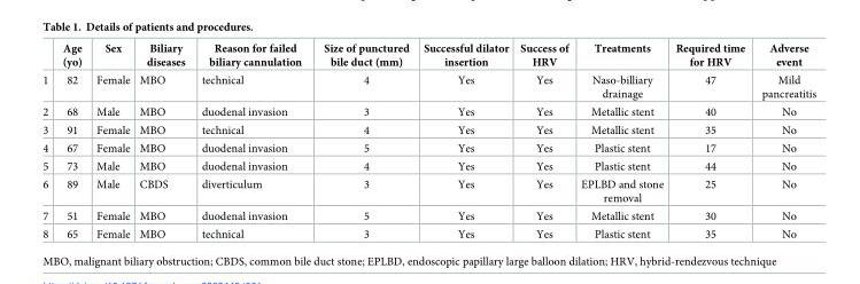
<table><thead><tr><td></td><td>Age (yo)</td><td>Sex</td><td>Biliary diseases</td><td>Reason for failed biliary cannulation</td><td>Size of punctured bile duct (mm)</td><td>Successful dilator insertion</td><td>Success of HRV</td><td>Treatments</td><td>Required time for HRV</td><td>Adverse event</td></tr></thead><tbody><tr><td>1</td><td>82</td><td>Female</td><td>MBO</td><td>technical</td><td>4</td><td>Yes</td><td>Yes</td><td>Naso-billiary drainage</td><td>47</td><td>Mild pancreatitis</td></tr><tr><td>2</td><td>68</td><td>Male</td><td>MBO</td><td>duodenal invasion</td><td>3</td><td>Yes</td><td>Yes</td><td>Metallic stent</td><td>40</td><td>No</td></tr><tr><td>3</td><td>91</td><td>Female</td><td>MBO</td><td>technical</td><td>4</td><td>Yes</td><td>Yes</td><td>Metallic stent</td><td>35</td><td>No</td></tr><tr><td>4</td><td>67</td><td>Female</td><td>MBO</td><td>duodenal invasion</td><td>5</td><td>Yes</td><td>Yes</td><td>Plastic stent</td><td>17</td><td>No</td></tr><tr><td>5</td><td>73</td><td>Male</td><td>MBO</td><td>duodenal invasion</td><td>4</td><td>Yes</td><td>Yes</td><td>Plastic stent</td><td>44</td><td>No</td></tr><tr><td>6</td><td>89</td><td>Male</td><td>CBDS</td><td>diverticulum</td><td>3</td><td>Yes</td><td>Yes</td><td>EPLBD and stone removal</td><td>25</td><td>No</td></tr><tr><td>7</td><td>51</td><td>Female</td><td>MBO</td><td>duodenal invasion</td><td>5</td><td>Yes</td><td>Yes</td><td>Metallic stent</td><td>30</td><td>No</td></tr><tr><td>8</td><td>65</td><td>Female</td><td>MBO</td><td>technical</td><td>3</td><td>Yes</td><td>Yes</td><td>Plastic stent</td><td>35</td><td>No</td></tr></tbody></table>